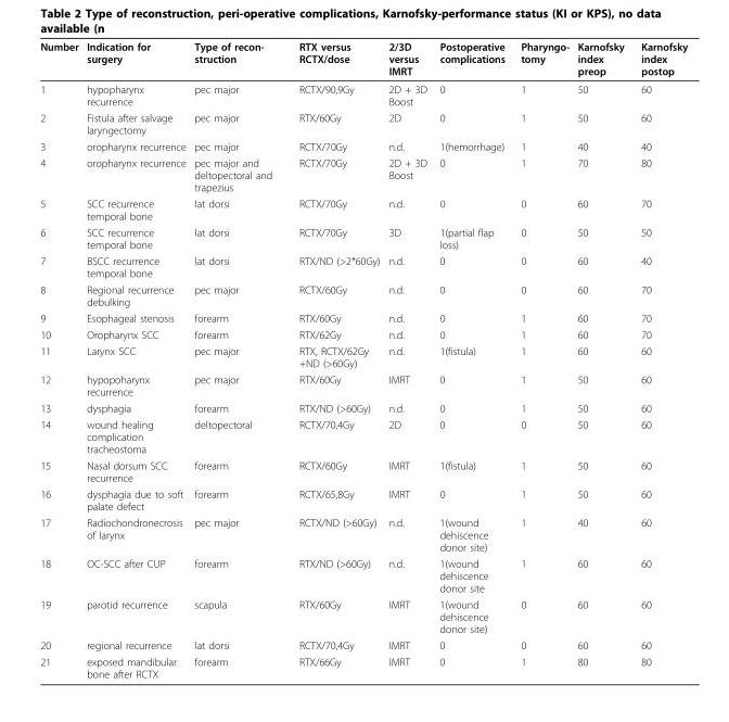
<table><thead><tr><td>Number</td><td>Indication for surgery</td><td>Type of recon- struction</td><td>RTX versus RCTX/dose</td><td>2/3D versus IMRT</td><td>Postoperative complications</td><td>Pharyngo- tomy</td><td>Karnofsky index preop</td><td>Karnofsky index postop</td></tr></thead><tbody><tr><td>1</td><td>hypopharynx recurrence</td><td>pec major</td><td>RCTX/90,9Gy</td><td>2D + 3D Boost</td><td>0</td><td>1</td><td>50</td><td>60</td></tr><tr><td>2</td><td>Fistula after salvage laryngectomy</td><td>pec major</td><td>RTX/60Gy</td><td>2D</td><td>0</td><td>1</td><td>50</td><td>60</td></tr><tr><td>3</td><td>oropharynx recurrence</td><td>pec major</td><td>RCTX/70Gy</td><td>n.d.</td><td>1(hemorrhage)</td><td>1</td><td>40</td><td>40</td></tr><tr><td>4</td><td>oropharynx recurrence</td><td>pec major and deltopectoral and trapezius</td><td>RCTX/70Gy</td><td>2D + 3D Boost</td><td>0</td><td>1</td><td>70</td><td>80</td></tr><tr><td>5</td><td>SCC recurrence temporal bone</td><td>lat dorsi</td><td>RCTX/70Gy</td><td>n.d.</td><td>0</td><td>0</td><td>60</td><td>70</td></tr><tr><td>6</td><td>SCC recurrence temporal bone</td><td>lat dorsi</td><td>RCTX/70Gy</td><td>3D</td><td>1(partial flap loss)</td><td>0</td><td>50</td><td>50</td></tr><tr><td>7</td><td>BSCC recurrence temporal bone</td><td>lat dorsi</td><td>RTX/ND (&gt;2*60Gy)</td><td>n.d.</td><td>0</td><td>0</td><td>60</td><td>40</td></tr><tr><td>8</td><td>Regional recurrence debulking</td><td>pec major</td><td>RCTX/60Gy</td><td>n.d.</td><td>0</td><td>0</td><td>60</td><td>70</td></tr><tr><td>9</td><td>Esophageal stenosis</td><td>forearm</td><td>RTX/60Gy</td><td>n.d.</td><td>0</td><td>1</td><td>60</td><td>70</td></tr><tr><td>10</td><td>Oropharynx SCC</td><td>forearm</td><td>RTX/62Gy</td><td>n.d.</td><td>0</td><td>1</td><td>60</td><td>70</td></tr><tr><td>11</td><td>Larynx SCC</td><td>pec major</td><td>RTX, RCTX/62Gy +ND (&gt;60Gy)</td><td>n.d.</td><td>1(fistula)</td><td>1</td><td>60</td><td>60</td></tr><tr><td>12</td><td>hypopoharynx recurrence</td><td>pec major</td><td>RTX/60Gy</td><td>IMRT</td><td>0</td><td>1</td><td>50</td><td>60</td></tr><tr><td>13</td><td>dysphagia</td><td>forearm</td><td>RTX/ND (&gt;60Gy)</td><td>n.d.</td><td>0</td><td>1</td><td>50</td><td>60</td></tr><tr><td>14</td><td>wound healing complication tracheostoma</td><td>deltopectoral</td><td>RCTX/70,4Gy</td><td>2D</td><td>0</td><td>0</td><td>50</td><td>60</td></tr><tr><td>15</td><td>Nasal dorsum SCC recurrence</td><td>forearm</td><td>RCTX/60Gy</td><td>IMRT</td><td>1(fistula)</td><td>1</td><td>50</td><td>60</td></tr><tr><td>16</td><td>dysphagia due to soft palate defect</td><td>forearm</td><td>RCTX/65,8Gy</td><td>IMRT</td><td>0</td><td>1</td><td>50</td><td>60</td></tr><tr><td>17</td><td>Radiochondronecrosis of larynx</td><td>pec major</td><td>RCTX/ND (&gt;60Gy)</td><td>n.d.</td><td>1(wound dehiscence donor site)</td><td>1</td><td>40</td><td>60</td></tr><tr><td>18</td><td>OC-SCC after CUP</td><td>forearm</td><td>RTX/ND (&gt;60Gy)</td><td>n.d.</td><td>1(wound dehiscence donor site</td><td>1</td><td>60</td><td>60</td></tr><tr><td>19</td><td>parotid recurrence</td><td>scapula</td><td>RTX/60Gy</td><td>IMRT</td><td>1(wound dehiscence donor site)</td><td>0</td><td>60</td><td>60</td></tr><tr><td>20</td><td>regional recurrence</td><td>lat dorsi</td><td>RCTX/70,4Gy</td><td>IMRT</td><td>0</td><td>0</td><td>60</td><td>60</td></tr><tr><td>21</td><td>exposed mandibular bone after RCTX</td><td>forearm</td><td>RTX/66Gy</td><td>IMRT</td><td>0</td><td>1</td><td>80</td><td>80</td></tr></tbody></table>